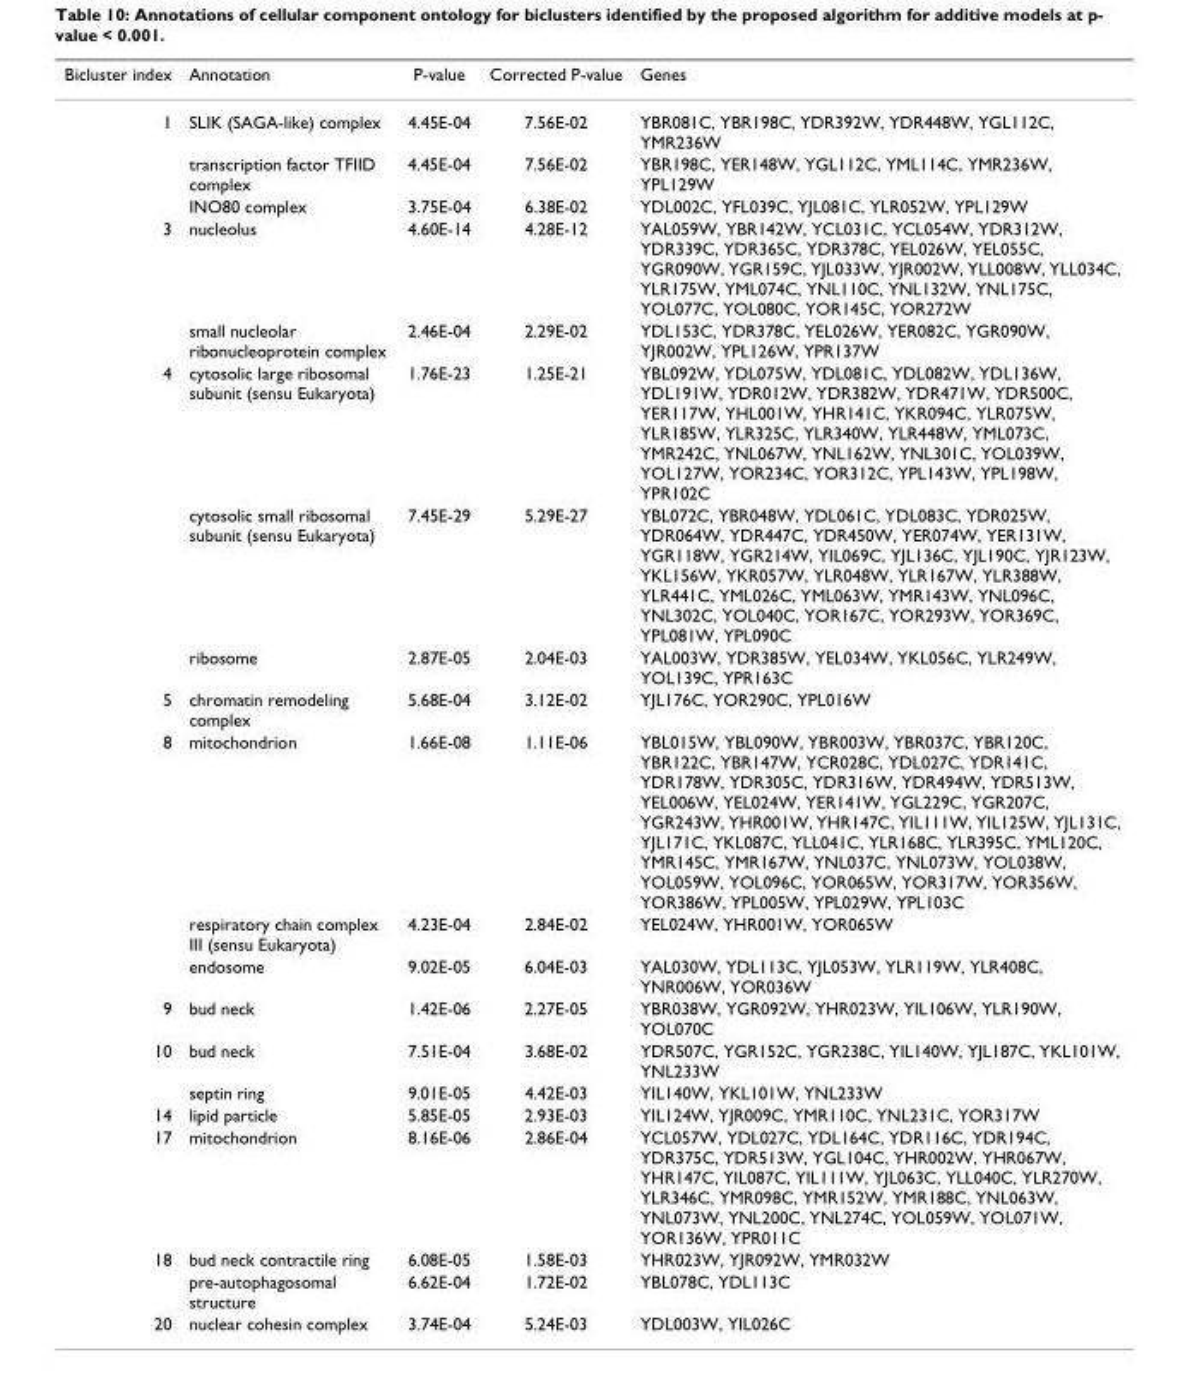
<table><thead><tr><td>Bicluster index</td><td>Annotation</td><td>P-value</td><td>Corrected P-value</td><td>Genes</td></tr></thead><tbody><tr><td rowspan="3">1</td><td>SLIK (SAGA-like) complex</td><td>4.45E-04</td><td>7.56E-02</td><td>YBR081C, YBR198C, YDR392W, YDR448W, YGL112C, YMR236W</td></tr><tr><td>transcription factor TFIID complex</td><td>4.45E-04</td><td>7.56E-02</td><td>YBR198C, YER148W, YGL112C, YML114C, YMR236W, YPL129W</td></tr><tr><td>INO80 complex</td><td>3.75E-04</td><td>6.38E-02</td><td>YDL002C, YFL039C, YJL081C, YLR052W, YPL129W</td></tr><tr><td rowspan="2">3</td><td>nucleolus</td><td>4.60E-14</td><td>4.28E-12</td><td>YAL059W, YBR142W, YCL031C, YCL054W, YDR312W, YDR339C, YDR365C, YDR378C, YEL026W, YEL055C, YGR090W, YGR159C, YJL033W, YJR002W, YLL008W, YLL034C, YLR175W, YML074C, YNL110C, YNL132W, YNL175C, YOL077C, YOL080C, YOR145C, YOR272W</td></tr><tr><td>small nucleolar ribonucleoprotein complex</td><td>2.46E-04</td><td>2.29E-02</td><td>YDL153C, YDR378C, YEL026W, YER082C, YGR090W, YJR002W, YPL126W, YPR137W</td></tr><tr><td rowspan="3">4</td><td>cytosolic large ribosomal subunit (sensu Eukaryota)</td><td>1.76E-23</td><td>1.25E-21</td><td>YBL092W, YDL075W, YDL081C, YDL082W, YDL136W, YDL191W, YDR012W, YDR382W, YDR471W, YDR500C, YER117W, YHL001W, YHR141C, YKR094C, YLR075W, YLR185W, YLR325C, YLR340W, YLR448W, YML073C, YMR242C, YNL067W, YNL162W, YNL301C, YOL039W, YOL127W, YOR234C, YOR312C, YPL143W, YPL198W, YPR102C</td></tr><tr><td>cytosolic small ribosomal subunit (sensu Eukaryota)</td><td>7.45E-29</td><td>5.29E-27</td><td>YBL072C, YBR048W, YDL061C, YDL083C, YDR025W, YDR064W, YDR447C, YDR450W, YER074W, YER131W, YGR118W, YGR214W, YIL069C, YJL136C, YJL190C, YJR123W, YKL156W, YKR057W, YLR048W, YLR167W, YLR388W, YLR441C, YML026C, YML063W, YMR143W, YNL096C, YNL302C, YOL040C, YOR167C, YOR293W, YOR369C, YPL081W, YPL090C</td></tr><tr><td>ribosome</td><td>2.87E-05</td><td>2.04E-03</td><td>YAL003W, YDR385W, YEL034W, YKL056C, YLR249W, YOL139C, YPR163C</td></tr><tr><td>5</td><td>chromatin remodeling complex</td><td>5.68E-04</td><td>3.12E-02</td><td>YJL176C, YOR290C, YPL016W</td></tr><tr><td rowspan="3">8</td><td>mitochondrion</td><td>1.66E-08</td><td>1.11E-06</td><td>YBL015W, YBL090W, YBR003W, YBR037C, YBR120C, YBR122C, YBR147W, YCR028C, YDL027C, YDR141C, YDR178W, YDR305C, YDR316W, YDR494W, YDR513W, YEL006W, YEL024W, YER141W, YGL229C, YGR207C, YGR243W, YHR001W, YHR147C, YIL111W, YIL125W, YJL131C, YJL171C, YKL087C, YLL041C, YLR168C, YLR395C, YML120C, YMR145C, YMR167W, YNL037C, YNL073W, YOL038W, YOL059W, YOL096C, YOR065W, YOR317W, YOR356W, YOR386W, YPL005W, YPL029W, YPL103C</td></tr><tr><td>respiratory chain complex III (sensu Eukaryota)</td><td>4.23E-04</td><td>2.84E-02</td><td>YEL024W, YHR001W, YOR065W</td></tr><tr><td>endosome</td><td>9.02E-05</td><td>6.04E-03</td><td>YAL030W, YDL113C, YJL053W, YLR119W, YLR408C, YNR006W, YOR036W</td></tr><tr><td>9</td><td>bud neck</td><td>1.42E-06</td><td>2.27E-05</td><td>YBR038W, YGR092W, YHR023W, YIL106W, YLR190W, YOL070C</td></tr><tr><td rowspan="2">10</td><td>bud neck</td><td>7.51E-04</td><td>3.68E-02</td><td>YDR507C, YGR152C, YGR238C, YIL140W, YJL187C, YKL101W, YNL233W</td></tr><tr><td>septin ring</td><td>9.01E-05</td><td>4.42E-03</td><td>YIL140W, YKL101W, YNL233W</td></tr><tr><td>14</td><td>lipid particle</td><td>5.85E-05</td><td>2.93E-03</td><td>YIL124W, YJR009C, YMR110C, YNL231C, YOR317W</td></tr><tr><td>17</td><td>mitochondrion</td><td>8.16E-06</td><td>2.86E-04</td><td>YCL057W, YDL027C, YDL164C, YDR116C, YDR194C, YDR375C, YDR513W, YGL104C, YHR002W, YHR067W, YHR147C, YIL087C, YIL111W, YJL063C, YLL040C, YLR270W, YLR346C, YMR098C, YMR152W, YMR188C, YNL063W, YNL073W, YNL200C, YNL274C, YOL059W, YOL071W, YOR136W, YPR011C</td></tr><tr><td rowspan="2">18</td><td>bud neck contractile ring</td><td>6.08E-05</td><td>1.58E-03</td><td>YHR023W, YJR092W, YMR032W</td></tr><tr><td>pre-autophagosomal structure</td><td>6.62E-04</td><td>1.72E-02</td><td>YBL078C, YDL113C</td></tr><tr><td>20</td><td>nuclear cohesin complex</td><td>3.74E-04</td><td>5.24E-03</td><td>YDL003W, YIL026C</td></tr></tbody></table>